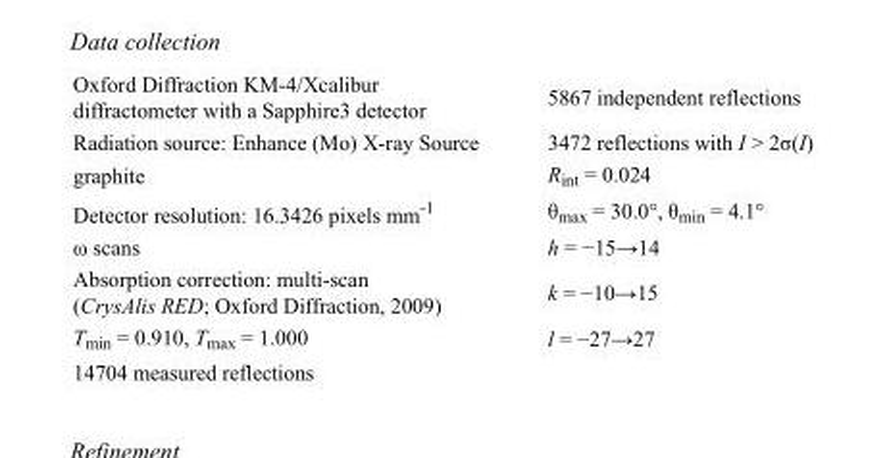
<table><tbody><tr><td>Oxford Diffraction KM-4/Xcalibur diffractometer with a Sapphire3 detector</td><td>5867 independent reflections</td></tr><tr><td>Radiation source: Enhance (Mo) X-ray Source</td><td>3472 reflections with I &gt; 2σ(I)</td></tr><tr><td>graphite</td><td>R<sub>int</sub> = 0.024</td></tr><tr><td>Detector resolution: 16.3426 pixels mm<sup>-1</sup></td><td>θ<sub>max</sub> = 30.0°, θ<sub>min</sub> = 4.1°</td></tr><tr><td>ω scans</td><td>h = −15→14</td></tr><tr><td>Absorption correction: multi-scan (CrysAlis RED; Oxford Diffraction, 2009)</td><td>k = −10→15</td></tr><tr><td>T<sub>min</sub> = 0.910, T<sub>max</sub> = 1.000</td><td>l = −27→27</td></tr><tr><td>14704 measured reflections</td><td></td></tr></tbody></table>